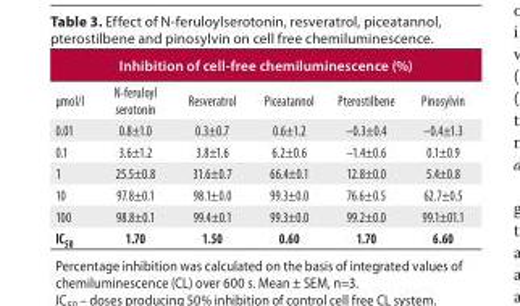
<table><thead><tr><td colspan="6">Inhibition of cell-free chemiluminescence (%)</td></tr><tr><td>μmol/l</td><td>N-feruloyl serotonin</td><td>Resveratrol</td><td>Piceatannol</td><td>Pterostilbene</td><td>Pinosylvin</td></tr></thead><tbody><tr><td>0.01</td><td>0.8±1.0</td><td>0.3±0.7</td><td>0.6±1.2</td><td>–0.3±0.4</td><td>–0.4±1.3</td></tr><tr><td>0.1</td><td>3.6±1.2</td><td>3.8±1.6</td><td>6.2±0.6</td><td>–1.4±0.6</td><td>0.1±0.9</td></tr><tr><td>1</td><td>25.5±0.8</td><td>31.6±0.7</td><td>66.4±0.1</td><td>12.8±0.0</td><td>5.4±0.8</td></tr><tr><td>10</td><td>97.8±0.1</td><td>98.1±0.0</td><td>99.3±0.0</td><td>76.6±0.5</td><td>62.7±0.5</td></tr><tr><td>100</td><td>98.8±0.1</td><td>99.4±0.1</td><td>99.3±0.0</td><td>99.2±0.0</td><td>99.1±01.1</td></tr><tr><td>IC<sub>50</sub></td><td>1.70</td><td>1.50</td><td>0.60</td><td>1.70</td><td>6.60</td></tr></tbody></table>